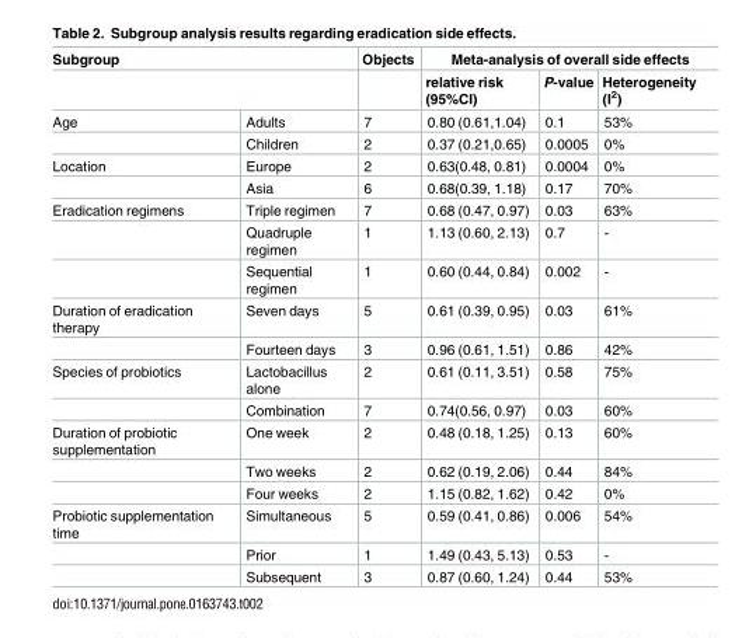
<table><thead><tr><td colspan="2">Subgroup</td><td rowspan="2">Objects</td><td colspan="3">Meta-analysis of overall side effects</td></tr><tr><td></td><td></td><td>relative risk (95%CI)</td><td>P-value</td><td>Heterogeneity (I<sup>2</sup>)</td></tr></thead><tbody><tr><td rowspan="2">Age</td><td>Adults</td><td>7</td><td>0.80 (0.61,1.04)</td><td>0.1</td><td>53%</td></tr><tr><td>Children</td><td>2</td><td>0.37 (0.21,0.65)</td><td>0.0005</td><td>0%</td></tr><tr><td rowspan="2">Location</td><td>Europe</td><td>2</td><td>0.63(0.48, 0.81)</td><td>0.0004</td><td>0%</td></tr><tr><td>Asia</td><td>6</td><td>0.68(0.39, 1.18)</td><td>0.17</td><td>70%</td></tr><tr><td rowspan="3">Eradication regimens</td><td>Triple regimen</td><td>7</td><td>0.68 (0.47, 0.97)</td><td>0.03</td><td>63%</td></tr><tr><td>Quadruple regimen</td><td>1</td><td>1.13 (0.60, 2.13)</td><td>0.7</td><td>-</td></tr><tr><td>Sequential regimen</td><td>1</td><td>0.60 (0.44, 0.84)</td><td>0.002</td><td>-</td></tr><tr><td rowspan="2">Duration of eradication therapy</td><td>Seven days</td><td>5</td><td>0.61 (0.39, 0.95)</td><td>0.03</td><td>61%</td></tr><tr><td>Fourteen days</td><td>3</td><td>0.96 (0.61, 1.51)</td><td>0.86</td><td>42%</td></tr><tr><td rowspan="2">Species of probiotics</td><td>Lactobacillus alone</td><td>2</td><td>0.61 (0.11, 3.51)</td><td>0.58</td><td>75%</td></tr><tr><td>Combination</td><td>7</td><td>0.74(0.56, 0.97)</td><td>0.03</td><td>60%</td></tr><tr><td rowspan="3">Duration of probiotic supplementation</td><td>One week</td><td>2</td><td>0.48 (0.18, 1.25)</td><td>0.13</td><td>60%</td></tr><tr><td>Two weeks</td><td>2</td><td>0.62 (0.19, 2.06)</td><td>0.44</td><td>84%</td></tr><tr><td>Four weeks</td><td>2</td><td>1.15 (0.82, 1.62)</td><td>0.42</td><td>0%</td></tr><tr><td rowspan="3">Probiotic supplementation time</td><td>Simultaneous</td><td>5</td><td>0.59 (0.41, 0.86)</td><td>0.006</td><td>54%</td></tr><tr><td>Prior</td><td>1</td><td>1.49 (0.43, 5.13)</td><td>0.53</td><td>-</td></tr><tr><td>Subsequent</td><td>3</td><td>0.87 (0.60, 1.24)</td><td>0.44</td><td>53%</td></tr></tbody></table>